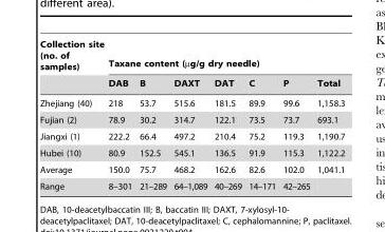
<table><thead><tr><td rowspan="2">Collection site (no. of samples)</td><td colspan="7">Taxane content (µg/g dry needle)</td></tr><tr><td>DAB</td><td>B</td><td>DAXT</td><td>DAT</td><td>C</td><td>P</td><td>Total</td></tr></thead><tbody><tr><td>Zhejiang (40)</td><td>218</td><td>53.7</td><td>515.6</td><td>181.5</td><td>89.9</td><td>99.6</td><td>1,158.3</td></tr><tr><td>Fujian (2)</td><td>78.9</td><td>30.2</td><td>314.7</td><td>122.1</td><td>73.5</td><td>73.7</td><td>693.1</td></tr><tr><td>Jiangxi (1)</td><td>222.2</td><td>66.4</td><td>497.2</td><td>210.4</td><td>75.2</td><td>119.3</td><td>1,190.7</td></tr><tr><td>Hubei (10)</td><td>80.9</td><td>152.5</td><td>545.1</td><td>136.5</td><td>91.9</td><td>115.3</td><td>1,122.2</td></tr><tr><td>Average</td><td>150.0</td><td>75.7</td><td>468.2</td><td>162.6</td><td>82.6</td><td>102.0</td><td>1,041.1</td></tr><tr><td>Range</td><td>8–301</td><td>21–289</td><td>64–1,089</td><td>40–269</td><td>14–171</td><td>42–265</td><td></td></tr></tbody></table>